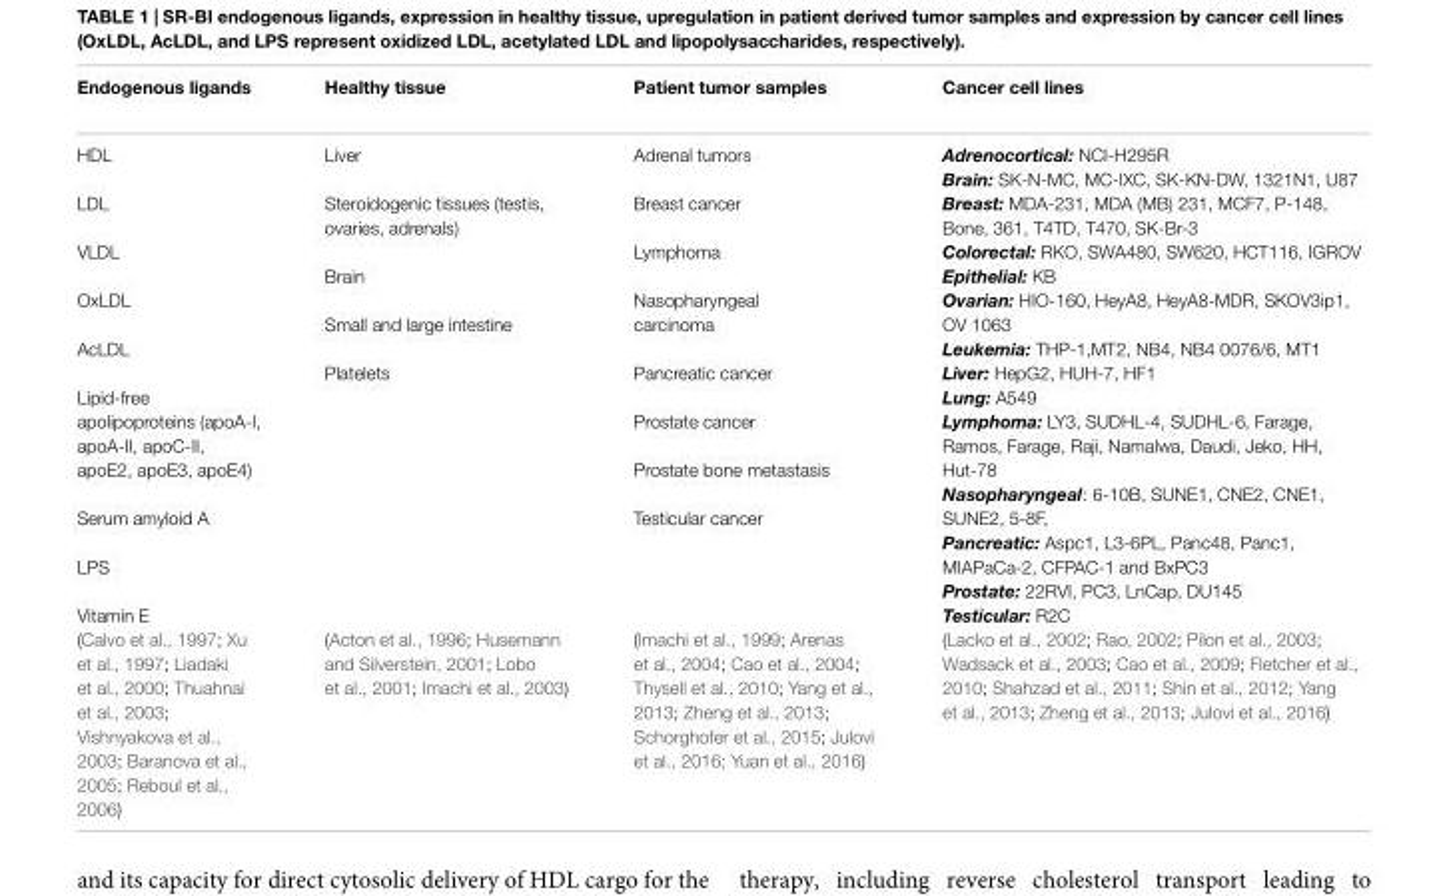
<table><thead><tr><td>Endogenous ligands</td><td>Healthy tissue</td><td>Patient tumor samples</td><td>Cancer cell lines</td></tr></thead><tbody><tr><td>HDL LDL VLDL OxLDL AcLDL Lipid-free apolipoproteins (apoA-I, apoA-II, apoC-II, apoE2, apoE3, apoE4) Serum amyloid A LPS Vitamin E (Calvo et al., 1997; Xu et al., 1997; Liadaki et al., 2000; Thuahnai et al., 2003; Vishnyakova et al., 2003; Baranova et al., 2005; Reboul et al., 2006)</td><td>Liver Steroidogenic tissues (testis, ovaries, adrenals) Brain Small and large intestine Platelets (Acton et al., 1996; Husemann and Silverstein, 2001; Lobo et al., 2001; Imachi et al., 2003)</td><td>Adrenal tumors Breast cancer Lymphoma Nasopharyngeal carcinoma Pancreatic cancer Prostate cancer Prostate bone metastasis Testicular cancer (Imachi et al., 1999; Arenas et al., 2004; Cao et al., 2004; Thysell et al., 2010; Yang et al., 2013; Zheng et al., 2013; Schorghofer et al., 2015; Julovi et al., 2016; Yuan et al., 2016)</td><td>Adrenocortical: NCI-H295R Brain: SK-N-MC, MC-IXC, SK-KN-DW, 1321N1, U87 Breast: MDA-231, MDA (MB) 231, MCF7, P-148, Bone, 361, T4TD, T470, SK-Br-3 Colorectal: RKO, SWA480, SW620, HCT116, IGROV Epithelial: KB Ovarian: HIO-160, HeyA8, HeyA8-MDR, SKOV3ip1, OV 1063 Leukemia: THP-1,MT2, NB4, NB4 0076/6, MT1 Liver: HepG2, HUH-7, HF1 Lung: A549 Lymphoma: LY3, SUDHL-4, SUDHL-6, Farage, Ramos, Farage, Raji, Namalwa, Daudi, Jeko, HH, Hut-78 Nasopharyngeal: 6-10B, SUNE1, CNE2, CNE1, SUNE2, 5-8F, Pancreatic: Aspc1, L3-6PL, Panc48, Panc1, MIAPaCa-2, CFPAC-1 and BxPC3 Prostate: 22RVI, PC3, LnCap, DU145 Testicular: R2C (Lacko et al., 2002; Rao, 2002; Pilon et al., 2003; Wadsack et al., 2003; Cao et al., 2009; Fletcher et al., 2010; Shahzad et al., 2011; Shin et al., 2012; Yang et al., 2013; Zheng et al., 2013; Julovi et al., 2016)</td></tr></tbody></table>